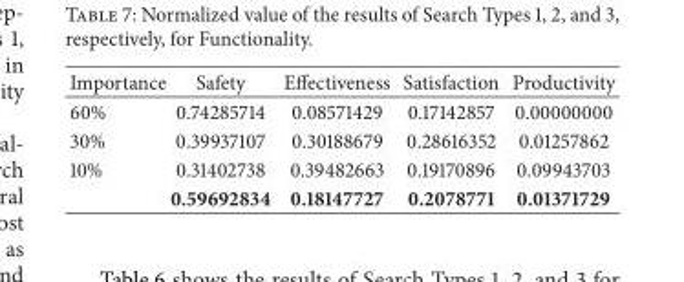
<table><thead><tr><td>Importance</td><td>Safety</td><td>Effectiveness</td><td>Satisfaction</td><td>Productivity</td></tr></thead><tbody><tr><td>60%</td><td>0.74285714</td><td>0.08571429</td><td>0.17142857</td><td>0.00000000</td></tr><tr><td>30%</td><td>0.39937107</td><td>0.30188679</td><td>0.28616352</td><td>0.01257862</td></tr><tr><td rowspan="2">10%</td><td>0.31402738</td><td>0.39482663</td><td>0.19170896</td><td>0.09943703</td></tr><tr><td>0.59692834</td><td>0.18147727</td><td>0.2078771</td><td>0.01371729</td></tr></tbody></table>